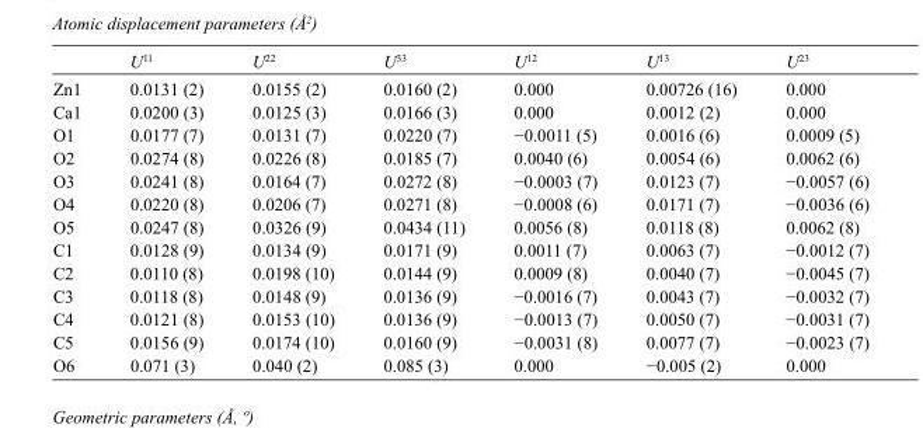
<table><thead><tr><td></td><td>U<sup>11</sup></td><td>U<sup>22</sup></td><td>U<sup>33</sup></td><td>U<sup>12</sup></td><td>U<sup>13</sup></td><td>U<sup>23</sup></td></tr></thead><tbody><tr><td>Zn1</td><td>0.0131 (2)</td><td>0.0155 (2)</td><td>0.0160 (2)</td><td>0.000</td><td>0.00726 (16)</td><td>0.000</td></tr><tr><td>Ca1</td><td>0.0200 (3)</td><td>0.0125 (3)</td><td>0.0166 (3)</td><td>0.000</td><td>0.0012 (2)</td><td>0.000</td></tr><tr><td>O1</td><td>0.0177 (7)</td><td>0.0131 (7)</td><td>0.0220 (7)</td><td>−0.0011 (5)</td><td>0.0016 (6)</td><td>0.0009 (5)</td></tr><tr><td>O2</td><td>0.0274 (8)</td><td>0.0226 (8)</td><td>0.0185 (7)</td><td>0.0040 (6)</td><td>0.0054 (6)</td><td>0.0062 (6)</td></tr><tr><td>O3</td><td>0.0241 (8)</td><td>0.0164 (7)</td><td>0.0272 (8)</td><td>−0.0003 (7)</td><td>0.0123 (7)</td><td>−0.0057 (6)</td></tr><tr><td>O4</td><td>0.0220 (8)</td><td>0.0206 (7)</td><td>0.0271 (8)</td><td>−0.0008 (6)</td><td>0.0171 (7)</td><td>−0.0036 (6)</td></tr><tr><td>O5</td><td>0.0247 (8)</td><td>0.0326 (9)</td><td>0.0434 (11)</td><td>0.0056 (8)</td><td>0.0118 (8)</td><td>0.0062 (8)</td></tr><tr><td>C1</td><td>0.0128 (9)</td><td>0.0134 (9)</td><td>0.0171 (9)</td><td>0.0011 (7)</td><td>0.0063 (7)</td><td>−0.0012 (7)</td></tr><tr><td>C2</td><td>0.0110 (8)</td><td>0.0198 (10)</td><td>0.0144 (9)</td><td>0.0009 (8)</td><td>0.0040 (7)</td><td>−0.0045 (7)</td></tr><tr><td>C3</td><td>0.0118 (8)</td><td>0.0148 (9)</td><td>0.0136 (9)</td><td>−0.0016 (7)</td><td>0.0043 (7)</td><td>−0.0032 (7)</td></tr><tr><td>C4</td><td>0.0121 (8)</td><td>0.0153 (10)</td><td>0.0136 (9)</td><td>−0.0013 (7)</td><td>0.0050 (7)</td><td>−0.0031 (7)</td></tr><tr><td>C5</td><td>0.0156 (9)</td><td>0.0174 (10)</td><td>0.0160 (9)</td><td>−0.0031 (8)</td><td>0.0077 (7)</td><td>−0.0023 (7)</td></tr><tr><td>O6</td><td>0.071 (3)</td><td>0.040 (2)</td><td>0.085 (3)</td><td>0.000</td><td>−0.005 (2)</td><td>0.000</td></tr></tbody></table>